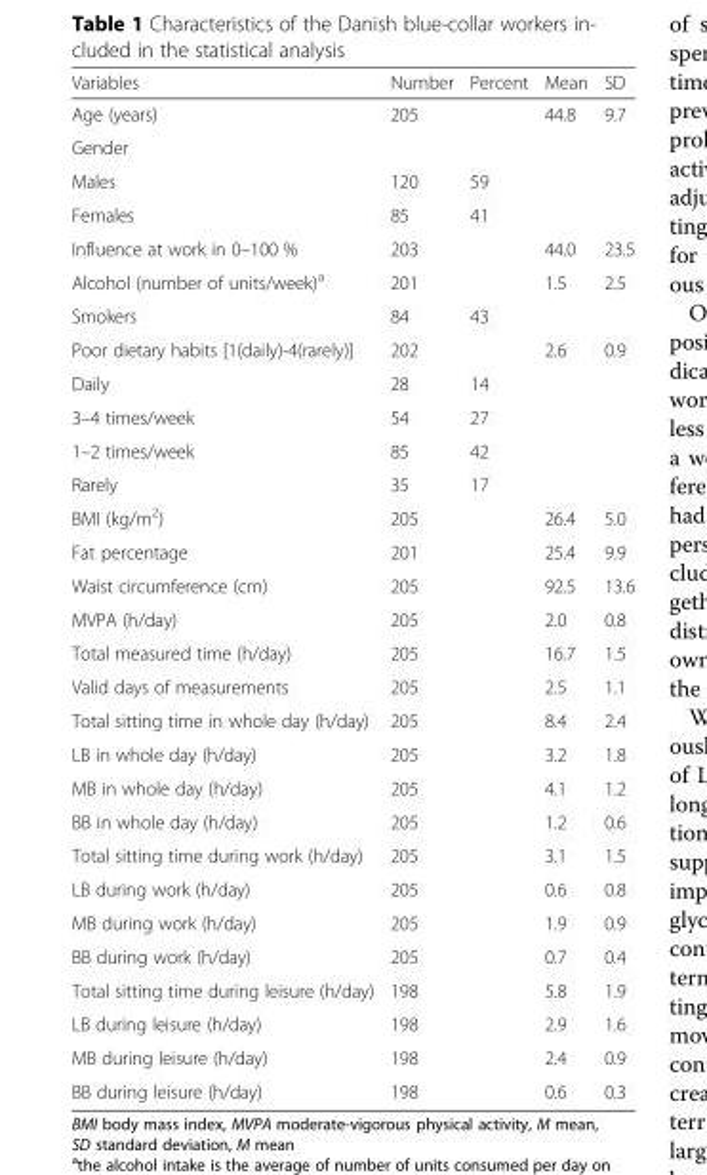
<table><thead><tr><td>Variables</td><td>Number</td><td>Percent</td><td>Mean</td><td>SD</td></tr></thead><tbody><tr><td>Age (years)</td><td>205</td><td></td><td>44.8</td><td>9.7</td></tr><tr><td colspan="5">Gender</td></tr><tr><td>Males</td><td>120</td><td>59</td><td></td><td></td></tr><tr><td>Females</td><td>85</td><td>41</td><td></td><td></td></tr><tr><td>Influence at work in 0–100 %</td><td>203</td><td></td><td>44.0</td><td>23.5</td></tr><tr><td>Alcohol (number of units/week)<sup>a</sup></td><td>201</td><td></td><td>1.5</td><td>2.5</td></tr><tr><td>Smokers</td><td>84</td><td>43</td><td></td><td></td></tr><tr><td>Poor dietary habits [1(daily)-4(rarely)]</td><td>202</td><td></td><td>2.6</td><td>0.9</td></tr><tr><td>Daily</td><td>28</td><td>14</td><td></td><td></td></tr><tr><td>3–4 times/week</td><td>54</td><td>27</td><td></td><td></td></tr><tr><td>1–2 times/week</td><td>85</td><td>42</td><td></td><td></td></tr><tr><td>Rarely</td><td>35</td><td>17</td><td></td><td></td></tr><tr><td>BMI (kg/m<sup>2</sup>)</td><td>205</td><td></td><td>26.4</td><td>5.0</td></tr><tr><td>Fat percentage</td><td>201</td><td></td><td>25.4</td><td>9.9</td></tr><tr><td>Waist circumference (cm)</td><td>205</td><td></td><td>92.5</td><td>13.6</td></tr><tr><td>MVPA (h/day)</td><td>205</td><td></td><td>2.0</td><td>0.8</td></tr><tr><td>Total measured time (h/day)</td><td>205</td><td></td><td>16.7</td><td>1.5</td></tr><tr><td>Valid days of measurements</td><td>205</td><td></td><td>2.5</td><td>1.1</td></tr><tr><td>Total sitting time in whole day (h/day)</td><td>205</td><td></td><td>8.4</td><td>2.4</td></tr><tr><td>LB in whole day (h/day)</td><td>205</td><td></td><td>3.2</td><td>1.8</td></tr><tr><td>MB in whole day (h/day)</td><td>205</td><td></td><td>4.1</td><td>1.2</td></tr><tr><td>BB in whole day (h/day)</td><td>205</td><td></td><td>1.2</td><td>0.6</td></tr><tr><td>Total sitting time during work (h/day)</td><td>205</td><td></td><td>3.1</td><td>1.5</td></tr><tr><td>LB during work (h/day)</td><td>205</td><td></td><td>0.6</td><td>0.8</td></tr><tr><td>MB during work (h/day)</td><td>205</td><td></td><td>1.9</td><td>0.9</td></tr><tr><td>BB during work (h/day)</td><td>205</td><td></td><td>0.7</td><td>0.4</td></tr><tr><td>Total sitting time during leisure (h/day)</td><td>198</td><td></td><td>5.8</td><td>1.9</td></tr><tr><td>LB during leisure (h/day)</td><td>198</td><td></td><td>2.9</td><td>1.6</td></tr><tr><td>MB during leisure (h/day)</td><td>198</td><td></td><td>2.4</td><td>0.9</td></tr><tr><td>BB during leisure (h/day)</td><td>198</td><td></td><td>0.6</td><td>0.3</td></tr></tbody></table>